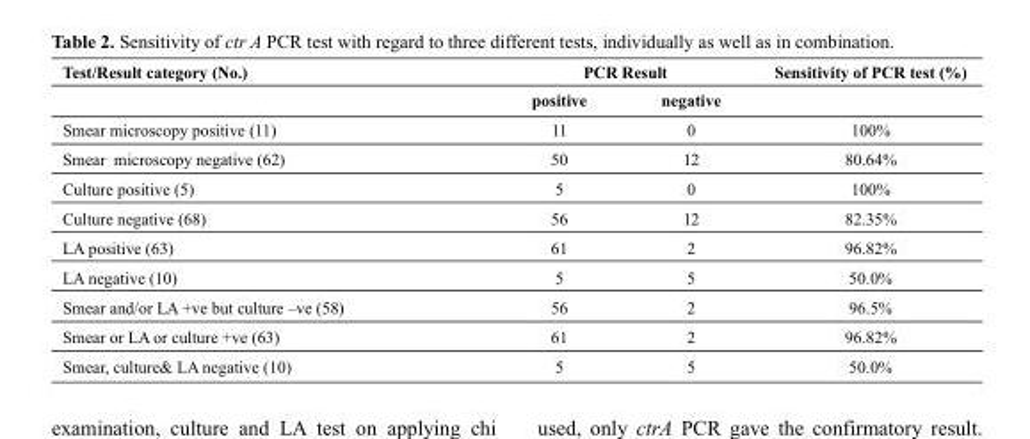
<table><thead><tr><td rowspan="2">Test/Result category (No.)</td><td colspan="2">PCR Result</td><td rowspan="2">Sensitivity of PCR test (%)</td></tr><tr><td>positive</td><td>negative</td></tr></thead><tbody><tr><td>Smear microscopy positive (11)</td><td>11</td><td>0</td><td>100%</td></tr><tr><td>Smear microscopy negative (62)</td><td>50</td><td>12</td><td>80.64%</td></tr><tr><td>Culture positive (5)</td><td>5</td><td>0</td><td>100%</td></tr><tr><td>Culture negative (68)</td><td>56</td><td>12</td><td>82.35%</td></tr><tr><td>LA positive (63)</td><td>61</td><td>2</td><td>96.82%</td></tr><tr><td>LA negative (10)</td><td>5</td><td>5</td><td>50.0%</td></tr><tr><td>Smear and/or LA +ve but culture –ve (58)</td><td>56</td><td>2</td><td>96.5%</td></tr><tr><td>Smear or LA or culture +ve (63)</td><td>61</td><td>2</td><td>96.82%</td></tr><tr><td>Smear, culture&amp; LA negative (10)</td><td>5</td><td>5</td><td>50.0%</td></tr></tbody></table>